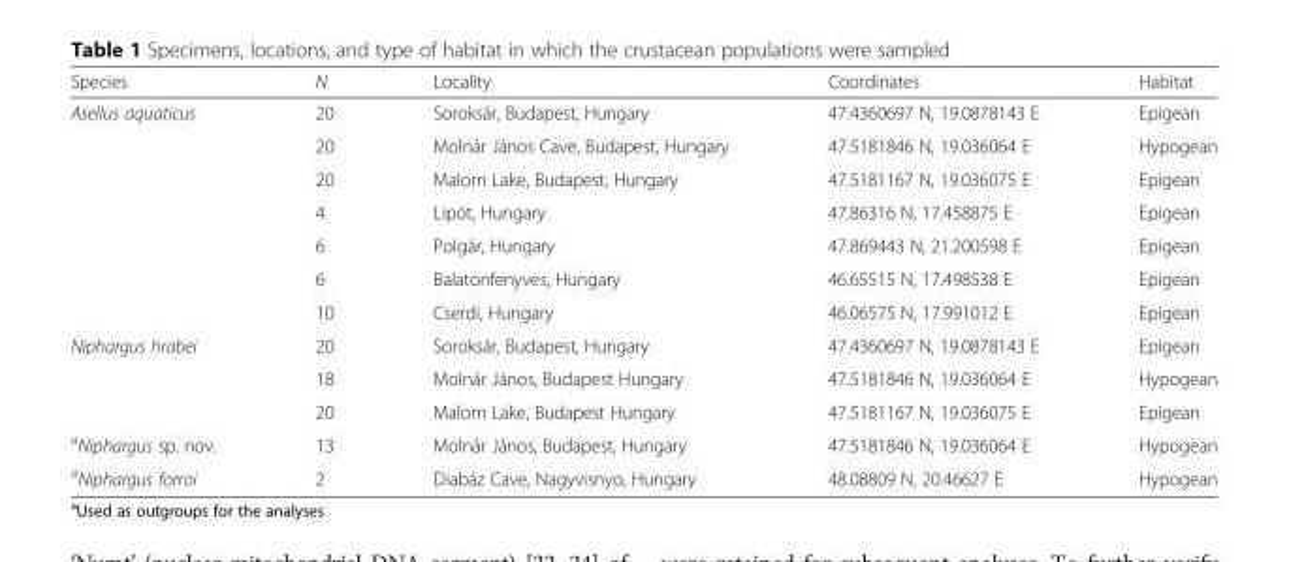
<table><thead><tr><td>Species</td><td>N</td><td>Locality</td><td>Coordinates</td><td>Habitat</td></tr></thead><tbody><tr><td rowspan="7">Asellus aquaticus</td><td>20</td><td>Soroksár, Budapest, Hungary</td><td>47.4360697 N, 19.0878143 E</td><td>Epigean</td></tr><tr><td>20</td><td>Molnár János Cave, Budapest, Hungary</td><td>47.5181846 N, 19.036064 E</td><td>Hypogean</td></tr><tr><td>20</td><td>Malom Lake, Budapest, Hungary</td><td>47.5181167 N, 19.036075 E</td><td>Epigean</td></tr><tr><td>4</td><td>Lipót, Hungary</td><td>47.86316 N, 17.458875 E</td><td>Epigean</td></tr><tr><td>6</td><td>Polgár, Hungary</td><td>47.869443 N, 21.200598 E</td><td>Epigean</td></tr><tr><td>6</td><td>Balatonfenyves, Hungary</td><td>46.65515 N, 17.498538 E</td><td>Epigean</td></tr><tr><td>10</td><td>Cserdi, Hungary</td><td>46.06575 N, 17.991012 E</td><td>Epigean</td></tr><tr><td rowspan="3">Niphargus hrabei</td><td>20</td><td>Soroksár, Budapest, Hungary</td><td>47.4360697 N, 19.0878143 E</td><td>Epigean</td></tr><tr><td>18</td><td>Molnár János, Budapest Hungary</td><td>47.5181846 N, 19.036064 E</td><td>Hypogean</td></tr><tr><td>20</td><td>Malom Lake, Budapest Hungary</td><td>47.5181167 N, 19.036075 E</td><td>Epigean</td></tr><tr><td><sup>a</sup>Niphargus sp. nov.</td><td>13</td><td>Molnár János, Budapest, Hungary</td><td>47.5181846 N, 19.036064 E</td><td>Hypogean</td></tr><tr><td><sup>a</sup>Niphargus forroi</td><td>2</td><td>Diabáz Cave, Nagyvisnyo, Hungary</td><td>48.08809 N, 20.46627 E</td><td>Hypogean</td></tr></tbody></table>